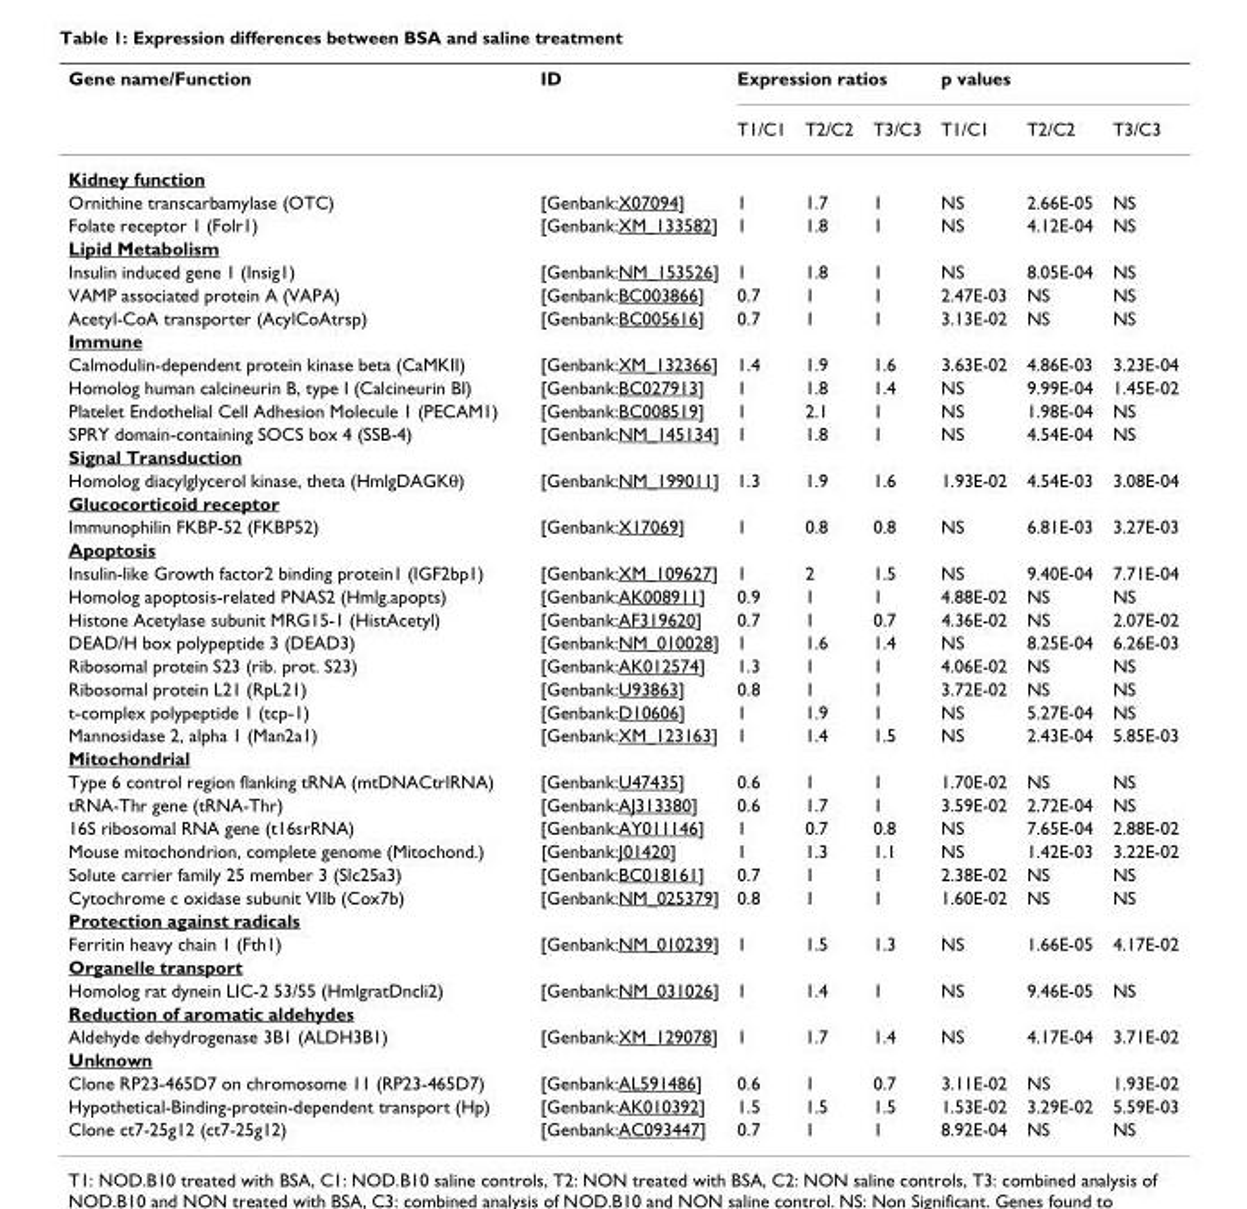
<table><thead><tr><td rowspan="2">Gene name/Function</td><td rowspan="2">ID</td><td colspan="3">Expression ratios</td><td colspan="3">p values</td></tr><tr><td>T1/C1</td><td>T2/C2</td><td>T3/C3</td><td>T1/C1</td><td>T2/C2</td><td>T3/C3</td></tr></thead><tbody><tr><td colspan="8">Kidney function</td></tr><tr><td>Ornithine transcarbamylase (OTC)</td><td>[Genbank:X07094]</td><td>1</td><td>1.7</td><td>1</td><td>NS</td><td>2.66E-05</td><td>NS</td></tr><tr><td>Folate receptor 1 (Folr1)</td><td>[Genbank:XM_133582]</td><td>1</td><td>1.8</td><td>1</td><td>NS</td><td>4.12E-04</td><td>NS</td></tr><tr><td colspan="8">Lipid Metabolism</td></tr><tr><td>Insulin induced gene 1 (Insig1)</td><td>[Genbank:NM_153526]</td><td>1</td><td>1.8</td><td>1</td><td>NS</td><td>8.05E-04</td><td>NS</td></tr><tr><td>VAMP associated protein A (VAPA)</td><td>[Genbank:BC003866]</td><td>0.7</td><td>1</td><td>1</td><td>2.47E-03</td><td>NS</td><td>NS</td></tr><tr><td>Acetyl-CoA transporter (AcylCoAtrsp)</td><td>[Genbank:BC005616]</td><td>0.7</td><td>1</td><td>1</td><td>3.13E-02</td><td>NS</td><td>NS</td></tr><tr><td colspan="8">Immune</td></tr><tr><td>Calmodulin-dependent protein kinase beta (CaMKII)</td><td>[Genbank:XM_132366]</td><td>1.4</td><td>1.9</td><td>1.6</td><td>3.63E-02</td><td>4.86E-03</td><td>3.23E-04</td></tr><tr><td>Homolog human calcineurin B, type I (Calcineurin BI)</td><td>[Genbank:BC027913]</td><td>1</td><td>1.8</td><td>1.4</td><td>NS</td><td>9.99E-04</td><td>1.45E-02</td></tr><tr><td>Platelet Endothelial Cell Adhesion Molecule 1 (PECAM1)</td><td>[Genbank:BC008519]</td><td>1</td><td>2.1</td><td>1</td><td>NS</td><td>1.98E-04</td><td>NS</td></tr><tr><td>SPRY domain-containing SOCS box 4 (SSB-4)</td><td>[Genbank:NM_145134]</td><td>1</td><td>1.8</td><td>1</td><td>NS</td><td>4.54E-04</td><td>NS</td></tr><tr><td colspan="8">Signal Transduction</td></tr><tr><td>Homolog diacylglycerol kinase, theta (HmlgDAGKθ)</td><td>[Genbank:NM_199011]</td><td>1.3</td><td>1.9</td><td>1.6</td><td>1.93E-02</td><td>4.54E-03</td><td>3.08E-04</td></tr><tr><td colspan="8">Glucocorticoid receptor</td></tr><tr><td>Immunophilin FKBP-52 (FKBP52)</td><td>[Genbank:X17069]</td><td>1</td><td>0.8</td><td>0.8</td><td>NS</td><td>6.81E-03</td><td>3.27E-03</td></tr><tr><td colspan="8">Apoptosis</td></tr><tr><td>Insulin-like Growth factor2 binding protein1 (IGF2bp1)</td><td>[Genbank:XM_109627]</td><td>1</td><td>2</td><td>1.5</td><td>NS</td><td>9.40E-04</td><td>7.71E-04</td></tr><tr><td>Homolog apoptosis-related PNAS2 (Hmlg.apopts)</td><td>[Genbank:AK008911]</td><td>0.9</td><td>1</td><td>1</td><td>4.88E-02</td><td>NS</td><td>NS</td></tr><tr><td>Histone Acetylase subunit MRG15-1 (HistAcetyl)</td><td>[Genbank:AF319620]</td><td>0.7</td><td>1</td><td>0.7</td><td>4.36E-02</td><td>NS</td><td>2.07E-02</td></tr><tr><td>DEAD/H box polypeptide 3 (DEAD3)</td><td>[Genbank:NM_010028]</td><td>1</td><td>1.6</td><td>1.4</td><td>NS</td><td>8.25E-04</td><td>6.26E-03</td></tr><tr><td>Ribosomal protein S23 (rib. prot. S23)</td><td>[Genbank:AK012574]</td><td>1.3</td><td>1</td><td>1</td><td>4.06E-02</td><td>NS</td><td>NS</td></tr><tr><td>Ribosomal protein L21 (RpL21)</td><td>[Genbank:U93863]</td><td>0.8</td><td>1</td><td>1</td><td>3.72E-02</td><td>NS</td><td>NS</td></tr><tr><td>t-complex polypeptide 1 (tcp-1)</td><td>[Genbank:D10606]</td><td>1</td><td>1.9</td><td>1</td><td>NS</td><td>5.27E-04</td><td>NS</td></tr><tr><td>Mannosidase 2, alpha 1 (Man2a1)</td><td>[Genbank:XM_123163]</td><td>1</td><td>1.4</td><td>1.5</td><td>NS</td><td>2.43E-04</td><td>5.85E-03</td></tr><tr><td colspan="8">Mitochondrial</td></tr><tr><td>Type 6 control region flanking tRNA (mtDNACtrlRNA)</td><td>[Genbank:U47435]</td><td>0.6</td><td>1</td><td>1</td><td>1.70E-02</td><td>NS</td><td>NS</td></tr><tr><td>tRNA-Thr gene (tRNA-Thr)</td><td>[Genbank:AJ313380]</td><td>0.6</td><td>1.7</td><td>1</td><td>3.59E-02</td><td>2.72E-04</td><td>NS</td></tr><tr><td>16S ribosomal RNA gene (t16srRNA)</td><td>[Genbank:AY011146]</td><td>1</td><td>0.7</td><td>0.8</td><td>NS</td><td>7.65E-04</td><td>2.88E-02</td></tr><tr><td>Mouse mitochondrion, complete genome (Mitochond.)</td><td>[Genbank:J01420]</td><td>1</td><td>1.3</td><td>1.1</td><td>NS</td><td>1.42E-03</td><td>3.22E-02</td></tr><tr><td>Solute carrier family 25 member 3 (Slc25a3)</td><td>[Genbank:BC018161]</td><td>0.7</td><td>1</td><td>1</td><td>2.38E-02</td><td>NS</td><td>NS</td></tr><tr><td>Cytochrome c oxidase subunit VIIb (Cox7b)</td><td>[Genbank:NM_025379]</td><td>0.8</td><td>1</td><td>1</td><td>1.60E-02</td><td>NS</td><td>NS</td></tr><tr><td colspan="8">Protection against radicals</td></tr><tr><td>Ferritin heavy chain 1 (Fth1)</td><td>[Genbank:NM_010239]</td><td>1</td><td>1.5</td><td>1.3</td><td>NS</td><td>1.66E-05</td><td>4.17E-02</td></tr><tr><td colspan="8">Organelle transport</td></tr><tr><td>Homolog rat dynein LIC-2 53/55 (HmlgratDncli2)</td><td>[Genbank:NM_031026]</td><td>1</td><td>1.4</td><td>1</td><td>NS</td><td>9.46E-05</td><td>NS</td></tr><tr><td colspan="8">Reduction of aromatic aldehydes</td></tr><tr><td>Aldehyde dehydrogenase 3B1 (ALDH3B1)</td><td>[Genbank:XM_129078]</td><td>1</td><td>1.7</td><td>1.4</td><td>NS</td><td>4.17E-04</td><td>3.71E-02</td></tr><tr><td colspan="8">Unknown</td></tr><tr><td>Clone RP23-465D7 on chromosome 11 (RP23-465D7)</td><td>[Genbank:AL591486]</td><td>0.6</td><td>1</td><td>0.7</td><td>3.11E-02</td><td>NS</td><td>1.93E-02</td></tr><tr><td>Hypothetical-Binding-protein-dependent transport (Hp)</td><td>[Genbank:AK010392]</td><td>1.5</td><td>1.5</td><td>1.5</td><td>1.53E-02</td><td>3.29E-02</td><td>5.59E-03</td></tr><tr><td>Clone ct7-25g12 (ct7-25g12)</td><td>[Genbank:AC093447]</td><td>0.7</td><td>1</td><td>1</td><td>8.92E-04</td><td>NS</td><td>NS</td></tr></tbody></table>